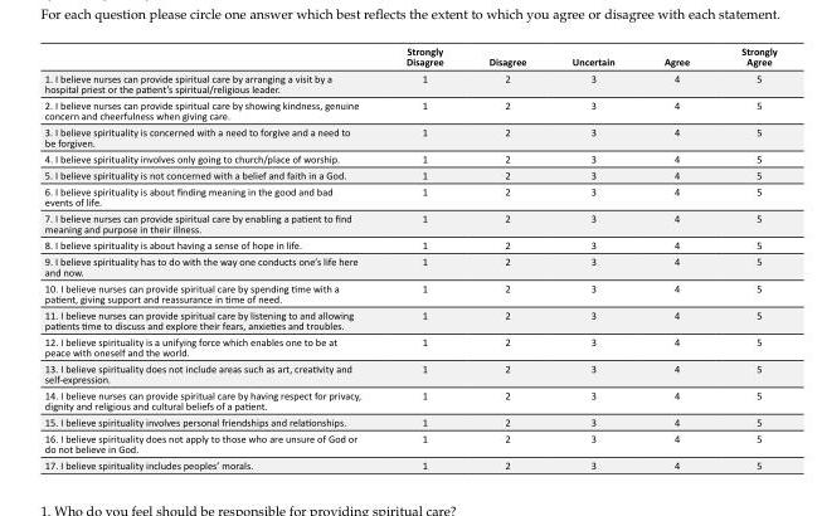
<table><thead><tr><td></td><td>Strongly Disagree</td><td>Disagree</td><td>Uncertain</td><td>Agree</td><td>Strongly Agree</td></tr></thead><tbody><tr><td>1. I believe nurses can provide spiritual care by arranging a visit by a hospital priest or the patient’s spiritual/religious leader.</td><td>1</td><td>2</td><td>3</td><td>4</td><td>5</td></tr><tr><td>2. I believe nurses can provide spiritual care by showing kindness, genuine concern and cheerfulness when giving care.</td><td>1</td><td>2</td><td>3</td><td>4</td><td>5</td></tr><tr><td>3. I believe spirituality is concerned with a need to forgive and a need to be forgiven.</td><td>1</td><td>2</td><td>3</td><td>4</td><td>5</td></tr><tr><td>4. I believe spirituality involves only going to church/place of worship.</td><td>1</td><td>2</td><td>3</td><td>4</td><td>5</td></tr><tr><td>5. I believe spirituality is not concerned with a belief and faith in a God.</td><td>1</td><td>2</td><td>3</td><td>4</td><td>5</td></tr><tr><td>6. I believe spirituality is about finding meaning in the good and bad events of life.</td><td>1</td><td>2</td><td>3</td><td>4</td><td>5</td></tr><tr><td>7. I believe nurses can provide spiritual care by enabling a patient to find meaning and purpose in their illness.</td><td>1</td><td>2</td><td>3</td><td>4</td><td>5</td></tr><tr><td>8. I believe spirituality is about having a sense of hope in life.</td><td>1</td><td>2</td><td>3</td><td>4</td><td>5</td></tr><tr><td>9. I believe spirituality has to do with the way one conducts one’s life here and now.</td><td>1</td><td>2</td><td>3</td><td>4</td><td>5</td></tr><tr><td>10. I believe nurses can provide spiritual care by spending time with a patient, giving support and reassurance in time of need.</td><td>1</td><td>2</td><td>3</td><td>4</td><td>5</td></tr><tr><td>11. I believe nurses can provide spiritual care by listening to and allowing patients time to discuss and explore their fears, anxieties and troubles.</td><td>1</td><td>2</td><td>3</td><td>4</td><td>5</td></tr><tr><td>12. I believe spirituality is a unifying force which enables one to be at peace with oneself and the world.</td><td>1</td><td>2</td><td>3</td><td>4</td><td>5</td></tr><tr><td>13. I believe spirituality does not include areas such as art, creativity and self-expression.</td><td>1</td><td>2</td><td>3</td><td>4</td><td>5</td></tr><tr><td>14. I believe nurses can provide spiritual care by having respect for privacy, dignity and religious and cultural beliefs of a patient.</td><td>1</td><td>2</td><td>3</td><td>4</td><td>5</td></tr><tr><td>15. I believe spirituality involves personal friendships and relationships.</td><td>1</td><td>2</td><td>3</td><td>4</td><td>5</td></tr><tr><td>16. I believe spirituality does not apply to those who are unsure of God or do not believe in God.</td><td>1</td><td>2</td><td>3</td><td>4</td><td>5</td></tr><tr><td>17. I believe spirituality includes peoples’ morals.</td><td>1</td><td>2</td><td>3</td><td>4</td><td>5</td></tr></tbody></table>